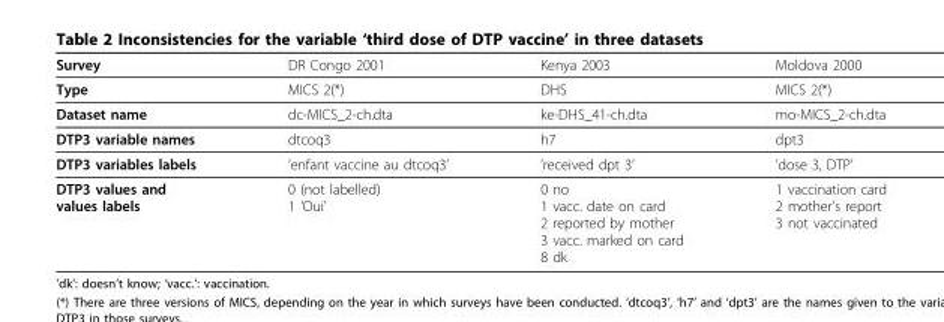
<table><thead><tr><td>Survey</td><td>DR Congo 2001</td><td>Kenya 2003</td><td>Moldova 2000</td></tr></thead><tbody><tr><td>Type</td><td>MICS 2(*)</td><td>DHS</td><td>MICS 2(*)</td></tr><tr><td>Dataset name</td><td>dc-MICS_2-ch.dta</td><td>ke-DHS_41-ch.dta</td><td>mo-MICS_2-ch.dta</td></tr><tr><td>DTP3 variable names</td><td>dtcoq3</td><td>h7</td><td>dpt3</td></tr><tr><td>DTP3 variables labels</td><td>’enfant vaccine au dtcoq3’</td><td>’received dpt 3’</td><td>’dose 3, DTP’</td></tr><tr><td>DTP3 values and values labels</td><td>0 (not labelled) 1 ‘Oui’</td><td>0 no 1 vacc. date on card 2 reported by mother 3 vacc. marked on card 8 dk</td><td>1 vaccination card 2 mother’s report 3 not vaccinated</td></tr></tbody></table>